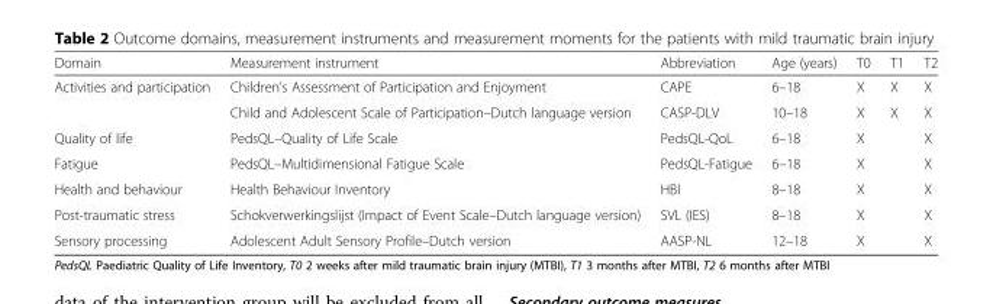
<table><thead><tr><td>Domain</td><td>Measurement instrument</td><td>Abbreviation</td><td>Age (years)</td><td>T0</td><td>T1</td><td>T2</td></tr></thead><tbody><tr><td rowspan="2">Activities and participation</td><td>Children’s Assessment of Participation and Enjoyment</td><td>CAPE</td><td>6–18</td><td>X</td><td>X</td><td>X</td></tr><tr><td>Child and Adolescent Scale of Participation–Dutch language version</td><td>CASP-DLV</td><td>10–18</td><td>X</td><td>X</td><td>X</td></tr><tr><td>Quality of life</td><td>PedsQL–Quality of Life Scale</td><td>PedsQL-QoL</td><td>6–18</td><td>X</td><td></td><td>X</td></tr><tr><td>Fatigue</td><td>PedsQL–Multidimensional Fatigue Scale</td><td>PedsQL-Fatigue</td><td>6–18</td><td>X</td><td></td><td>X</td></tr><tr><td>Health and behaviour</td><td>Health Behaviour Inventory</td><td>HBI</td><td>8–18</td><td>X</td><td></td><td>X</td></tr><tr><td>Post-traumatic stress</td><td>Schokverwerkingslijst (Impact of Event Scale–Dutch language version)</td><td>SVL (IES)</td><td>8–18</td><td>X</td><td></td><td>X</td></tr><tr><td>Sensory processing</td><td>Adolescent Adult Sensory Profile–Dutch version</td><td>AASP-NL</td><td>12–18</td><td>X</td><td></td><td>X</td></tr></tbody></table>